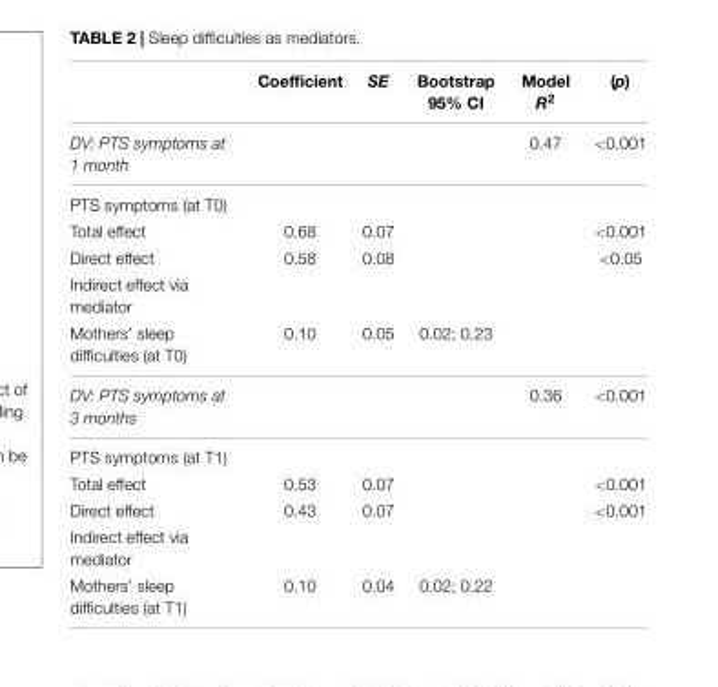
<table><thead><tr><td></td><td>Coefficient</td><td>SE</td><td>Bootstrap 95% CI</td><td>Model R<sup>2</sup></td><td>(p)</td></tr></thead><tbody><tr><td>DV: PTS symptoms at 1 month</td><td></td><td></td><td></td><td>0.47</td><td>&lt;0.001</td></tr><tr><td colspan="6">PTS symptoms (at T0)</td></tr><tr><td>Total effect</td><td>0.68</td><td>0.07</td><td></td><td></td><td>&lt;0.001</td></tr><tr><td>Direct effect</td><td>0.58</td><td>0.08</td><td></td><td></td><td>&lt;0.05</td></tr><tr><td colspan="6">Indirect effect via mediator</td></tr><tr><td>Mothers’ sleep difficulties (at T0)</td><td>0.10</td><td>0.05</td><td>0.02; 0.23</td><td></td><td></td></tr><tr><td>DV: PTS symptoms at 3 months</td><td></td><td></td><td></td><td>0.36</td><td>&lt;0.001</td></tr><tr><td colspan="6">PTS symptoms (at T1)</td></tr><tr><td>Total effect</td><td>0.53</td><td>0.07</td><td></td><td></td><td>&lt;0.001</td></tr><tr><td>Direct effect</td><td>0.43</td><td>0.07</td><td></td><td></td><td>&lt;0.001</td></tr><tr><td colspan="6">Indirect effect via mediator</td></tr><tr><td>Mothers’ sleep difficulties (at T1)</td><td>0.10</td><td>0.04</td><td>0.02; 0.22</td><td></td><td></td></tr></tbody></table>